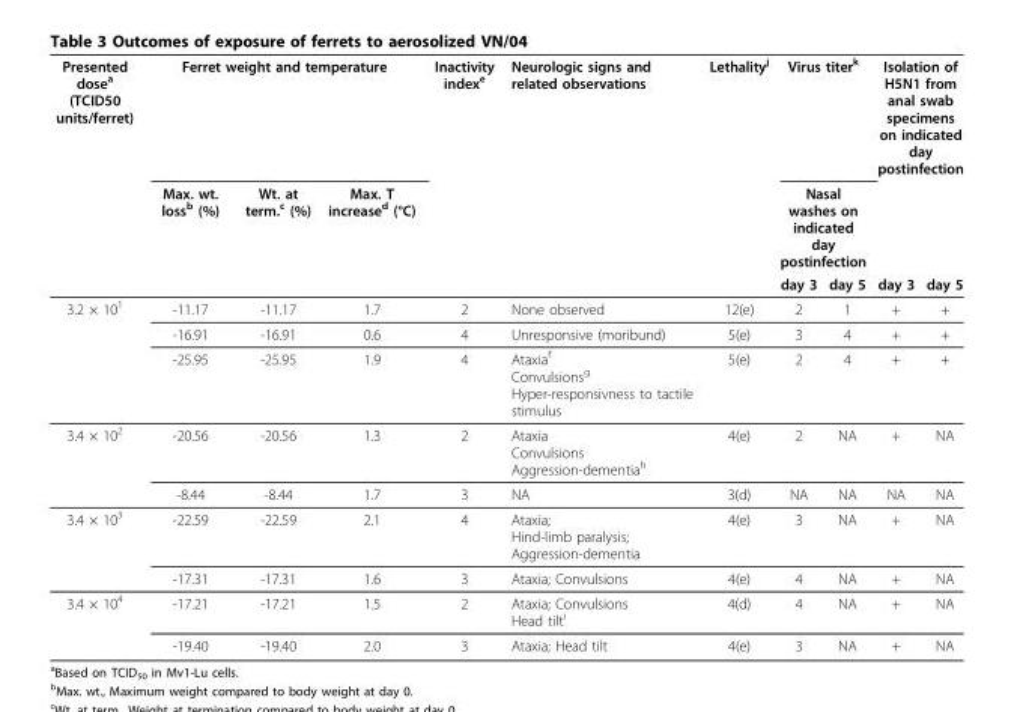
<table><thead><tr><td rowspan="3">Presented dosea (TCID50 units/ferret)</td><td colspan="3">Ferret weight and temperature</td><td rowspan="3">Inactivity indexe</td><td rowspan="3">Neurologic signs and related observations</td><td rowspan="3">Lethalityj</td><td rowspan="2" colspan="2">Virus titerk Nasal washes on indicated day postinfection</td><td colspan="2">Isolation of H5N1 from anal swab specimens on indicated day postinfection</td></tr><tr><td rowspan="2">Max. wt. lossb (%)</td><td rowspan="2">Wt. at term.c (%)</td><td rowspan="2">Max. T increased (°C)</td><td rowspan="2">day 3</td><td rowspan="2">day 5</td></tr><tr><td>day 3</td><td>day 5</td></tr></thead><tbody><tr><td rowspan="3">3.2 × 101</td><td>-11.17</td><td>-11.17</td><td>1.7</td><td>2</td><td>None observed</td><td>12(e)</td><td>2</td><td>1</td><td>+</td><td>+</td></tr><tr><td>-16.91</td><td>-16.91</td><td>0.6</td><td>4</td><td>Unresponsive (moribund)</td><td>5(e)</td><td>3</td><td>4</td><td>+</td><td>+</td></tr><tr><td>-25.95</td><td>-25.95</td><td>1.9</td><td>4</td><td>Ataxiaf Convulsionsg Hyper-responsivness to tactile stimulus</td><td>5(e)</td><td>2</td><td>4</td><td>+</td><td>+</td></tr><tr><td rowspan="2">3.4 × 102</td><td>-20.56</td><td>-20.56</td><td>1.3</td><td>2</td><td>Ataxia Convulsions Aggression-dementiah</td><td>4(e)</td><td>2</td><td>NA</td><td>+</td><td>NA</td></tr><tr><td>-8.44</td><td>-8.44</td><td>1.7</td><td>3</td><td>NA</td><td>3(d)</td><td>NA</td><td>NA</td><td>NA</td><td>NA</td></tr><tr><td rowspan="2">3.4 × 103</td><td>-22.59</td><td>-22.59</td><td>2.1</td><td>4</td><td>Ataxia; Hind-limb paralysis; Aggression-dementia</td><td>4(e)</td><td>3</td><td>NA</td><td>+</td><td>NA</td></tr><tr><td>-17.31</td><td>-17.31</td><td>1.6</td><td>3</td><td>Ataxia; Convulsions</td><td>4(e)</td><td>4</td><td>NA</td><td>+</td><td>NA</td></tr><tr><td rowspan="2">3.4 × 104</td><td>-17.21</td><td>-17.21</td><td>1.5</td><td>2</td><td>Ataxia; Convulsions Head tilti</td><td>4(d)</td><td>4</td><td>NA</td><td>+</td><td>NA</td></tr><tr><td>-19.40</td><td>-19.40</td><td>2.0</td><td>3</td><td>Ataxia; Head tilt</td><td>4(e)</td><td>3</td><td>NA</td><td>+</td><td>NA</td></tr></tbody></table>